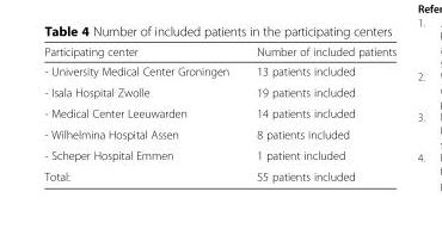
<table><thead><tr><td>Participating center</td><td>Number of included patients</td></tr></thead><tbody><tr><td>- University Medical Center Groningen</td><td>13 patients included</td></tr><tr><td>- Isala Hospital Zwolle</td><td>19 patients included</td></tr><tr><td>- Medical Center Leeuwarden</td><td>14 patients included</td></tr><tr><td>- Wilhelmina Hospital Assen</td><td>8 patients included</td></tr><tr><td>- Scheper Hospital Emmen</td><td>1 patient included</td></tr><tr><td>Total:</td><td>55 patients included</td></tr></tbody></table>